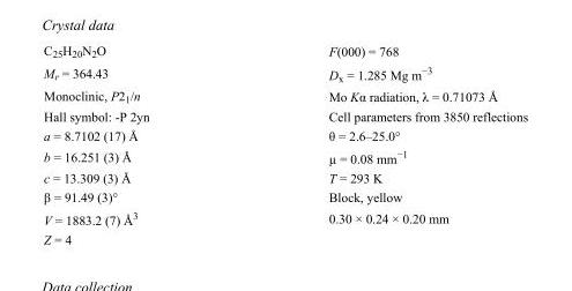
<table><tbody><tr><td>C<sub>25</sub>H<sub>20</sub>N<sub>2</sub>O</td><td>F(000) = 768</td></tr><tr><td>M<sub>r</sub> = 364.43</td><td>D<sub>x</sub> = 1.285 Mg m<sup>−3</sup></td></tr><tr><td>Monoclinic, P2<sub>1</sub>/n</td><td>Mo Kα radiation, λ = 0.71073 Å</td></tr><tr><td>Hall symbol: -P 2yn</td><td>Cell parameters from 3850 reflections</td></tr><tr><td>a = 8.7102 (17) Å</td><td>θ = 2.6–25.0°</td></tr><tr><td>b = 16.251 (3) Å</td><td>µ = 0.08 mm<sup>−1</sup></td></tr><tr><td>c = 13.309 (3) Å</td><td>T = 293 K</td></tr><tr><td>β = 91.49 (3)°</td><td>Block, yellow</td></tr><tr><td>V = 1883.2 (7) Å<sup>3</sup></td><td>0.30 × 0.24 × 0.20 mm</td></tr><tr><td>Z = 4</td><td></td></tr></tbody></table>